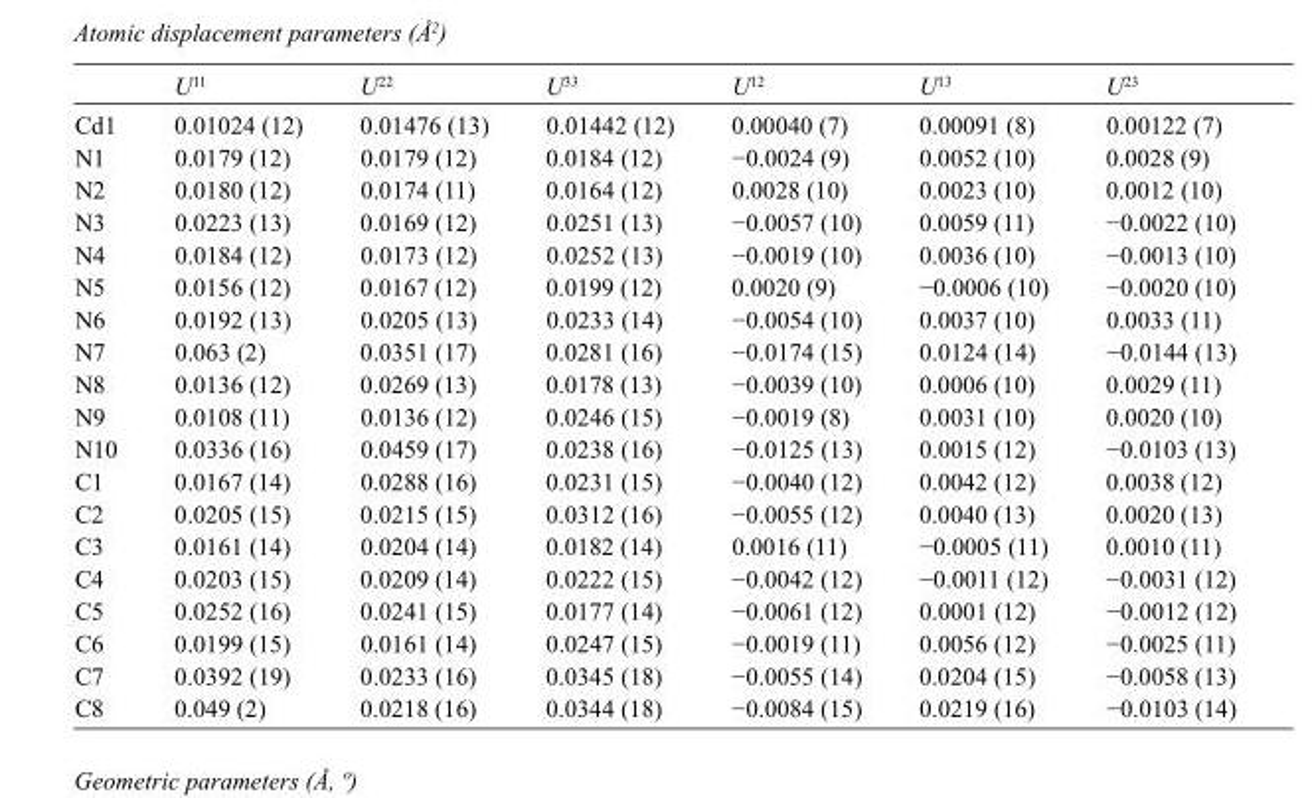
<table><thead><tr><td></td><td>U<sup>11</sup></td><td>U<sup>22</sup></td><td>U<sup>33</sup></td><td>U<sup>12</sup></td><td>U<sup>13</sup></td><td>U<sup>23</sup></td></tr></thead><tbody><tr><td>Cd1</td><td>0.01024 (12)</td><td>0.01476 (13)</td><td>0.01442 (12)</td><td>0.00040 (7)</td><td>0.00091 (8)</td><td>0.00122 (7)</td></tr><tr><td>N1</td><td>0.0179 (12)</td><td>0.0179 (12)</td><td>0.0184 (12)</td><td>−0.0024 (9)</td><td>0.0052 (10)</td><td>0.0028 (9)</td></tr><tr><td>N2</td><td>0.0180 (12)</td><td>0.0174 (11)</td><td>0.0164 (12)</td><td>0.0028 (10)</td><td>0.0023 (10)</td><td>0.0012 (10)</td></tr><tr><td>N3</td><td>0.0223 (13)</td><td>0.0169 (12)</td><td>0.0251 (13)</td><td>−0.0057 (10)</td><td>0.0059 (11)</td><td>−0.0022 (10)</td></tr><tr><td>N4</td><td>0.0184 (12)</td><td>0.0173 (12)</td><td>0.0252 (13)</td><td>−0.0019 (10)</td><td>0.0036 (10)</td><td>−0.0013 (10)</td></tr><tr><td>N5</td><td>0.0156 (12)</td><td>0.0167 (12)</td><td>0.0199 (12)</td><td>0.0020 (9)</td><td>−0.0006 (10)</td><td>−0.0020 (10)</td></tr><tr><td>N6</td><td>0.0192 (13)</td><td>0.0205 (13)</td><td>0.0233 (14)</td><td>−0.0054 (10)</td><td>0.0037 (10)</td><td>0.0033 (11)</td></tr><tr><td>N7</td><td>0.063 (2)</td><td>0.0351 (17)</td><td>0.0281 (16)</td><td>−0.0174 (15)</td><td>0.0124 (14)</td><td>−0.0144 (13)</td></tr><tr><td>N8</td><td>0.0136 (12)</td><td>0.0269 (13)</td><td>0.0178 (13)</td><td>−0.0039 (10)</td><td>0.0006 (10)</td><td>0.0029 (11)</td></tr><tr><td>N9</td><td>0.0108 (11)</td><td>0.0136 (12)</td><td>0.0246 (15)</td><td>−0.0019 (8)</td><td>0.0031 (10)</td><td>0.0020 (10)</td></tr><tr><td>N10</td><td>0.0336 (16)</td><td>0.0459 (17)</td><td>0.0238 (16)</td><td>−0.0125 (13)</td><td>0.0015 (12)</td><td>−0.0103 (13)</td></tr><tr><td>C1</td><td>0.0167 (14)</td><td>0.0288 (16)</td><td>0.0231 (15)</td><td>−0.0040 (12)</td><td>0.0042 (12)</td><td>0.0038 (12)</td></tr><tr><td>C2</td><td>0.0205 (15)</td><td>0.0215 (15)</td><td>0.0312 (16)</td><td>−0.0055 (12)</td><td>0.0040 (13)</td><td>0.0020 (13)</td></tr><tr><td>C3</td><td>0.0161 (14)</td><td>0.0204 (14)</td><td>0.0182 (14)</td><td>0.0016 (11)</td><td>−0.0005 (11)</td><td>0.0010 (11)</td></tr><tr><td>C4</td><td>0.0203 (15)</td><td>0.0209 (14)</td><td>0.0222 (15)</td><td>−0.0042 (12)</td><td>−0.0011 (12)</td><td>−0.0031 (12)</td></tr><tr><td>C5</td><td>0.0252 (16)</td><td>0.0241 (15)</td><td>0.0177 (14)</td><td>−0.0061 (12)</td><td>0.0001 (12)</td><td>−0.0012 (12)</td></tr><tr><td>C6</td><td>0.0199 (15)</td><td>0.0161 (14)</td><td>0.0247 (15)</td><td>−0.0019 (11)</td><td>0.0056 (12)</td><td>−0.0025 (11)</td></tr><tr><td>C7</td><td>0.0392 (19)</td><td>0.0233 (16)</td><td>0.0345 (18)</td><td>−0.0055 (14)</td><td>0.0204 (15)</td><td>−0.0058 (13)</td></tr><tr><td>C8</td><td>0.049 (2)</td><td>0.0218 (16)</td><td>0.0344 (18)</td><td>−0.0084 (15)</td><td>0.0219 (16)</td><td>−0.0103 (14)</td></tr></tbody></table>